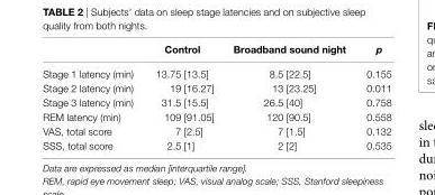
<table><thead><tr><td></td><td>control</td><td>Broadband sound night</td><td>p</td></tr></thead><tbody><tr><td>Stage 1 latency (min)</td><td>13.75 [13.5]</td><td>8.5 [22.5]</td><td>0.155</td></tr><tr><td>Stage 2 latency (min)</td><td>19 [16.27]</td><td>13 [23.25]</td><td>0.011</td></tr><tr><td>Stage 3 latency (min)</td><td>31.5 [15.5]</td><td>26.5 [40]</td><td>0.758</td></tr><tr><td>REM latency (min)</td><td>109 [91.05]</td><td>120 [90.5]</td><td>0.558</td></tr><tr><td>VAS, total score</td><td>7 [2.5]</td><td>7 [1.5]</td><td>0.132</td></tr><tr><td>SSS, total score</td><td>2.5 [1]</td><td>2 [2]</td><td>0.535</td></tr></tbody></table>